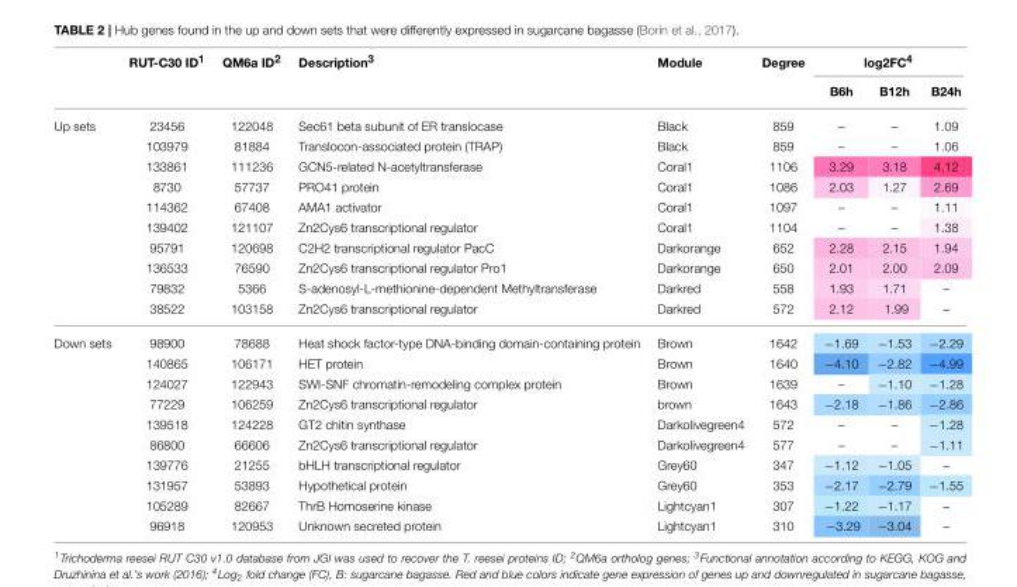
<table><thead><tr><td rowspan="2"></td><td rowspan="2">RUT-C30 ID<sup>1</sup></td><td rowspan="2">QM6a ID<sup>2</sup></td><td rowspan="2">Description<sup>3</sup></td><td rowspan="2">Module</td><td rowspan="2">Degree</td><td colspan="3">log2FC<sup>4</sup></td></tr><tr><td>B6h</td><td>B12h</td><td>B24h</td></tr></thead><tbody><tr><td rowspan="10">Up sets</td><td>23456</td><td>122048</td><td>Sec61 beta subunit of ER translocase</td><td>Black</td><td>859</td><td>–</td><td>–</td><td>1.09</td></tr><tr><td>103979</td><td>81884</td><td>Translocon-associated protein (TRAP)</td><td>Black</td><td>859</td><td>–</td><td>–</td><td>1.06</td></tr><tr><td>133861</td><td>111236</td><td>GCN5-related N-acetyltransferase</td><td>Coral1</td><td>1106</td><td>3.29</td><td>3.18</td><td>4.12</td></tr><tr><td>8730</td><td>57737</td><td>PRO41 protein</td><td>Coral1</td><td>1086</td><td>2.03</td><td>1.27</td><td>2.69</td></tr><tr><td>114362</td><td>67408</td><td>AMA1 activator</td><td>Coral1</td><td>1097</td><td>–</td><td>–</td><td>1.11</td></tr><tr><td>139402</td><td>121107</td><td>Zn2Cys6 transcriptional regulator</td><td>Coral1</td><td>1104</td><td>–</td><td>–</td><td>1.38</td></tr><tr><td>95791</td><td>120698</td><td>C2H2 transcriptional regulator PacC</td><td>Darkorange</td><td>652</td><td>2.28</td><td>2.15</td><td>1.94</td></tr><tr><td>136533</td><td>76590</td><td>Zn2Cys6 transcriptional regulator Pro1</td><td>Darkorange</td><td>650</td><td>2.01</td><td>2.00</td><td>2.09</td></tr><tr><td>79832</td><td>5366</td><td>S-adenosyl-L-methionine-dependent Methyltransferase</td><td>Darkred</td><td>558</td><td>1.93</td><td>1.71</td><td>–</td></tr><tr><td>38522</td><td>103158</td><td>Zn2Cys6 transcriptional regulator</td><td>Darkred</td><td>572</td><td>2.12</td><td>1.99</td><td>–</td></tr><tr><td rowspan="10">Down sets</td><td>98900</td><td>78688</td><td>Heat shock factor-type DNA-binding domain-containing protein</td><td>Brown</td><td>1642</td><td>−1.69</td><td>−1.53</td><td>−2.29</td></tr><tr><td>140865</td><td>106171</td><td>HET protein</td><td>Brown</td><td>1640</td><td>−4.10</td><td>−2.82</td><td>−4.99</td></tr><tr><td>124027</td><td>122943</td><td>SWI-SNF chromatin-remodeling complex protein</td><td>Brown</td><td>1639</td><td>–</td><td>−1.10</td><td>−1.28</td></tr><tr><td>77229</td><td>106259</td><td>Zn2Cys6 transcriptional regulator</td><td>brown</td><td>1643</td><td>−2.18</td><td>−1.86</td><td>−2.86</td></tr><tr><td>139518</td><td>124228</td><td>GT2 chitin synthase</td><td>Darkolivegreen4</td><td>572</td><td>–</td><td>–</td><td>−1.28</td></tr><tr><td>86800</td><td>66606</td><td>Zn2Cys6 transcriptional regulator</td><td>Darkolivegreen4</td><td>577</td><td>–</td><td>–</td><td>−1.11</td></tr><tr><td>139776</td><td>21255</td><td>bHLH transcriptional regulator</td><td>Grey60</td><td>347</td><td>−1.12</td><td>−1.05</td><td>–</td></tr><tr><td>131957</td><td>53893</td><td>Hypothetical protein</td><td>Grey60</td><td>353</td><td>−2.17</td><td>−2.79</td><td>−1.55</td></tr><tr><td>105289</td><td>82667</td><td>ThrB Homoserine kinase</td><td>Lightcyan1</td><td>307</td><td>−1.22</td><td>−1.17</td><td>–</td></tr><tr><td>96918</td><td>120953</td><td>Unknown secreted protein</td><td>Lightcyan1</td><td>310</td><td>−3.29</td><td>−3.04</td><td>–</td></tr></tbody></table>